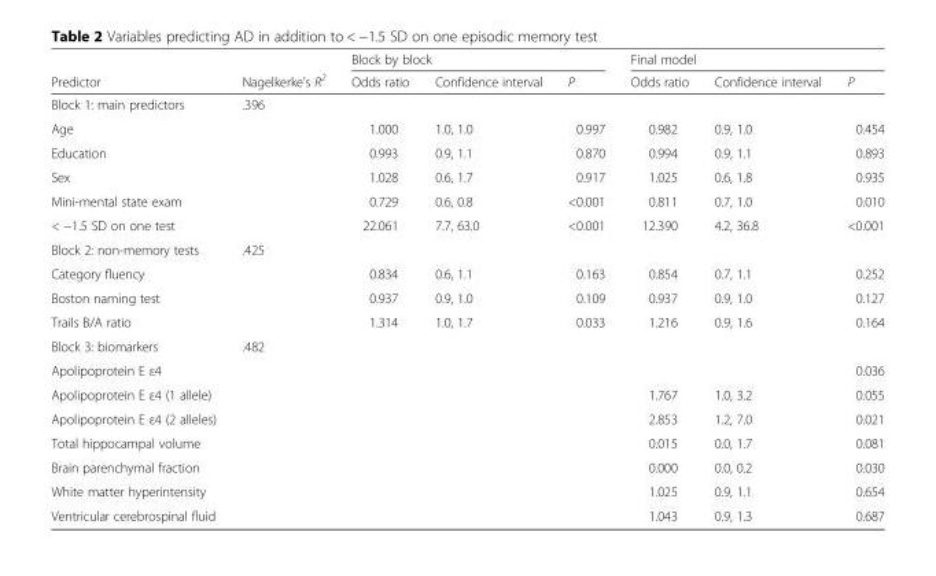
<table><thead><tr><td rowspan="2">Predictor</td><td rowspan="2">Nagelkerke’s R<sup>2</sup></td><td colspan="3">Block by block</td><td colspan="3">Final model</td></tr><tr><td>Odds ratio</td><td>Confidence interval</td><td>P</td><td>Odds ratio</td><td>Confidence interval</td><td>P</td></tr></thead><tbody><tr><td>Block 1: main predictors</td><td>.396</td><td></td><td></td><td></td><td></td><td></td><td></td></tr><tr><td>Age</td><td></td><td>1.000</td><td>1.0, 1.0</td><td>0.997</td><td>0.982</td><td>0.9, 1.0</td><td>0.454</td></tr><tr><td>Education</td><td></td><td>0.993</td><td>0.9, 1.1</td><td>0.870</td><td>0.994</td><td>0.9, 1.1</td><td>0.893</td></tr><tr><td>Sex</td><td></td><td>1.028</td><td>0.6, 1.7</td><td>0.917</td><td>1.025</td><td>0.6, 1.8</td><td>0.935</td></tr><tr><td>Mini-mental state exam</td><td></td><td>0.729</td><td>0.6, 0.8</td><td>&lt;0.001</td><td>0.811</td><td>0.7, 1.0</td><td>0.010</td></tr><tr><td>&lt; −1.5 SD on one test</td><td></td><td>22.061</td><td>7.7, 63.0</td><td>&lt;0.001</td><td>12.390</td><td>4.2, 36.8</td><td>&lt;0.001</td></tr><tr><td>Block 2: non-memory tests</td><td>.425</td><td></td><td></td><td></td><td></td><td></td><td></td></tr><tr><td>Category fluency</td><td></td><td>0.834</td><td>0.6, 1.1</td><td>0.163</td><td>0.854</td><td>0.7, 1.1</td><td>0.252</td></tr><tr><td>Boston naming test</td><td></td><td>0.937</td><td>0.9, 1.0</td><td>0.109</td><td>0.937</td><td>0.9, 1.0</td><td>0.127</td></tr><tr><td>Trails B/A ratio</td><td></td><td>1.314</td><td>1.0, 1.7</td><td>0.033</td><td>1.216</td><td>0.9, 1.6</td><td>0.164</td></tr><tr><td>Block 3: biomarkers</td><td>.482</td><td></td><td></td><td></td><td></td><td></td><td></td></tr><tr><td>Apolipoprotein E ε4</td><td></td><td></td><td></td><td></td><td></td><td></td><td>0.036</td></tr><tr><td>Apolipoprotein E ε4 (1 allele)</td><td></td><td></td><td></td><td></td><td>1.767</td><td>1.0, 3.2</td><td>0.055</td></tr><tr><td>Apolipoprotein E ε4 (2 alleles)</td><td></td><td></td><td></td><td></td><td>2.853</td><td>1.2, 7.0</td><td>0.021</td></tr><tr><td>Total hippocampal volume</td><td></td><td></td><td></td><td></td><td>0.015</td><td>0.0, 1.7</td><td>0.081</td></tr><tr><td>Brain parenchymal fraction</td><td></td><td></td><td></td><td></td><td>0.000</td><td>0.0, 0.2</td><td>0.030</td></tr><tr><td>White matter hyperintensity</td><td></td><td></td><td></td><td></td><td>1.025</td><td>0.9, 1.1</td><td>0.654</td></tr><tr><td>Ventricular cerebrospinal fluid</td><td></td><td></td><td></td><td></td><td>1.043</td><td>0.9, 1.3</td><td>0.687</td></tr></tbody></table>